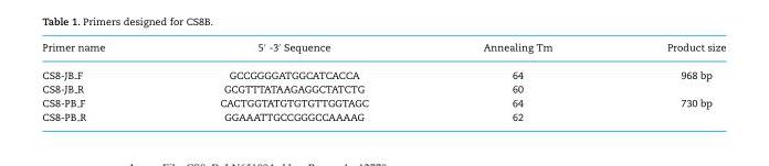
<table><thead><tr><td>Primer name</td><td>5<sup>′</sup> -3<sup>′</sup> Sequence</td><td>Annealing Tm</td><td>Product size</td></tr></thead><tbody><tr><td>CS8-JB F</td><td>GCCGGGGATGGCATCACCA</td><td>64</td><td>968 bp</td></tr><tr><td>CS8-JB R</td><td>GCGTTTATAAGAGGCTATCTG</td><td>60</td><td></td></tr><tr><td>CS8-PB F</td><td>CACTGGTATGTGTGTTGGTAGC</td><td>64</td><td>730 bp</td></tr><tr><td>CS8-PB R</td><td>GGAAATTGCCGGGCCAAAAG</td><td>62</td><td></td></tr></tbody></table>